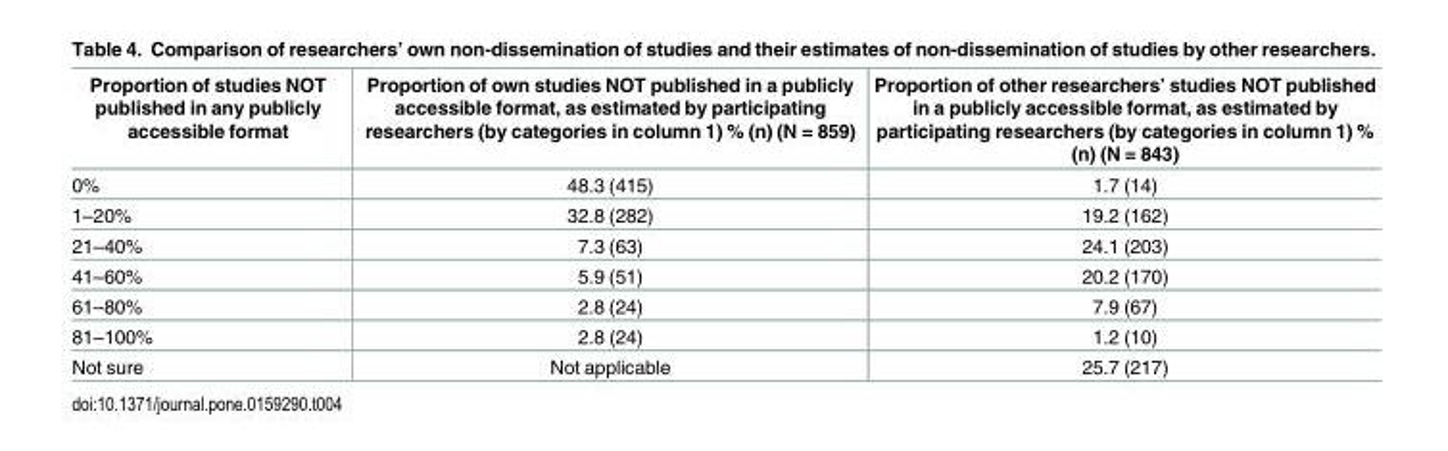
<table><thead><tr><td>Proportion of studies NOT published in any publicly accessible format</td><td>Proportion of own studies NOT published in a publicly accessible format, as estimated by participating researchers (by categories in column 1) % (n) (N = 859)</td><td>Proportion of other researchers’ studies NOT published in a publicly accessible format, as estimated by participating researchers (by categories in column 1) % (n) (N = 843)</td></tr></thead><tbody><tr><td>0%</td><td>48.3 (415)</td><td>1.7 (14)</td></tr><tr><td>1–20%</td><td>32.8 (282)</td><td>19.2 (162)</td></tr><tr><td>21–40%</td><td>7.3 (63)</td><td>24.1 (203)</td></tr><tr><td>41–60%</td><td>5.9 (51)</td><td>20.2 (170)</td></tr><tr><td>61–80%</td><td>2.8 (24)</td><td>7.9 (67)</td></tr><tr><td>81–100%</td><td>2.8 (24)</td><td>1.2 (10)</td></tr><tr><td>Not sure</td><td>Not applicable</td><td>25.7 (217)</td></tr></tbody></table>